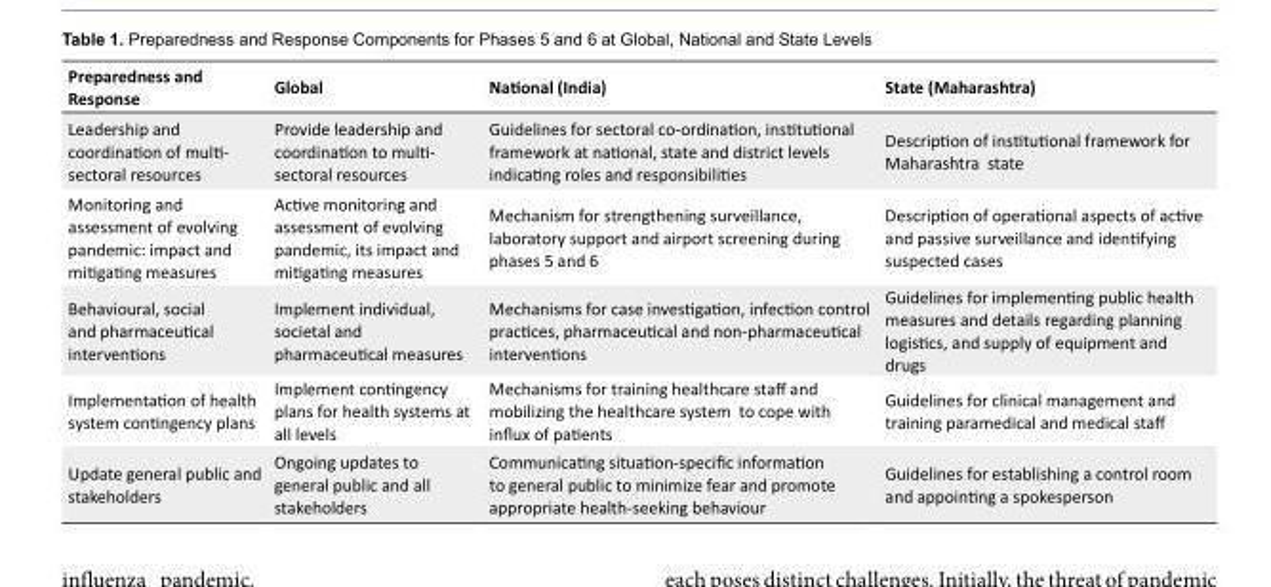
<table><tbody><tr><td>Preparedness and Response</td><td>Global</td><td>National (India)</td><td>State (Maharashtra)</td></tr><tr><td>Leadership and coordination of multi- sectoral resources</td><td>Provide leadership and coordination to multi- sectoral resources</td><td>Guidelines for sectoral co-ordination, institutional framework at national, state and district levels indicating roles and responsibilities</td><td>Description of institutional framework for Maharashtra state</td></tr><tr><td>Monitoring and assessment of evolving pandemic: impact and mitigating measures</td><td>Active monitoring and assessment of evolving pandemic, its impact and mitigating measures</td><td>Mechanism for strengthening surveillance, laboratory support and airport screening during phases 5 and 6</td><td>Description of operational aspects of active and passive surveillance and identifying suspected cases</td></tr><tr><td>Behavioural, social and pharmaceutical interventions</td><td>Implement individual, societal and pharmaceutical measures</td><td>Mechanisms for case investigation, infection control practices, pharmaceutical and non-pharmaceutical interventions</td><td>Guidelines for implementing public health measures and details regarding planning logistics, and supply of equipment and drugs</td></tr><tr><td>Implementation of health system contingency plans</td><td>Implement contingency plans for health systems at all levels</td><td>Mechanisms for training healthcare staff and mobilizing the healthcare system to cope with influx of patients</td><td>Guidelines for clinical management and training paramedical and medical staff</td></tr><tr><td>Update general public and stakeholders</td><td>Ongoing updates to general public and all stakeholders</td><td>Communicating situation-specific information to general public to minimize fear and promote appropriate health-seeking behaviour</td><td>Guidelines for establishing a control room and appointing a spokesperson</td></tr></tbody></table>